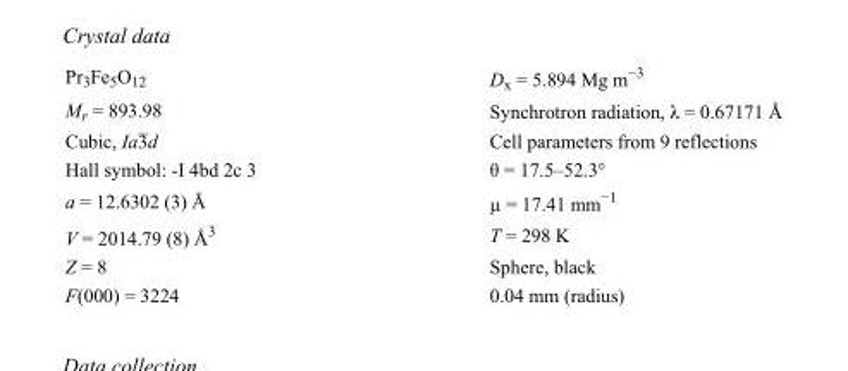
<table><tbody><tr><td>Pr<sub>3</sub>Fe<sub>5</sub>O<sub>12</sub></td><td>D<sub>x</sub> = 5.894 Mg m<sup>−3</sup></td></tr><tr><td>M<sub>r</sub> = 893.98</td><td>Synchrotron radiation, λ = 0.67171 Å</td></tr><tr><td>Cubic, Ia3d</td><td>Cell parameters from 9 reflections</td></tr><tr><td>Hall symbol: -I 4bd 2c 3</td><td>θ = 17.5–52.3°</td></tr><tr><td>a = 12.6302 (3) Å</td><td>µ = 17.41 mm<sup>−1</sup></td></tr><tr><td>V = 2014.79 (8) Å<sup>3</sup></td><td>T = 298 K</td></tr><tr><td>Z = 8</td><td>Sphere, black</td></tr><tr><td>F(000) = 3224</td><td>0.04 mm (radius)</td></tr></tbody></table>